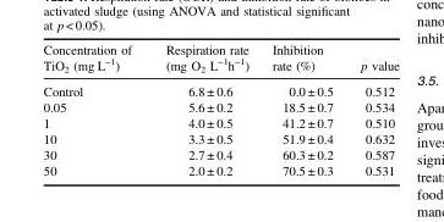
<table><thead><tr><td>Concentration of TiO<sub>2</sub> (mg L<sup>−1</sup>)</td><td>Respiration rate (mg O<sub>2</sub> L<sup>−1</sup>h<sup>−1</sup>)</td><td>Inhibition rate (%)</td><td>p value</td></tr></thead><tbody><tr><td>Control</td><td>6.8 ± 0.6</td><td>0.0 ± 0.5</td><td>0.512</td></tr><tr><td>0.05</td><td>5.6 ± 0.2</td><td>18.5 ± 0.7</td><td>0.534</td></tr><tr><td>1</td><td>4.0 ± 0.5</td><td>41.2 ± 0.7</td><td>0.510</td></tr><tr><td>10</td><td>3.3 ± 0.5</td><td>51.9 ± 0.4</td><td>0.632</td></tr><tr><td>30</td><td>2.7 ± 0.4</td><td>60.3 ± 0.2</td><td>0.587</td></tr><tr><td>50</td><td>2.0 ± 0.2</td><td>70.5 ± 0.3</td><td>0.531</td></tr></tbody></table>